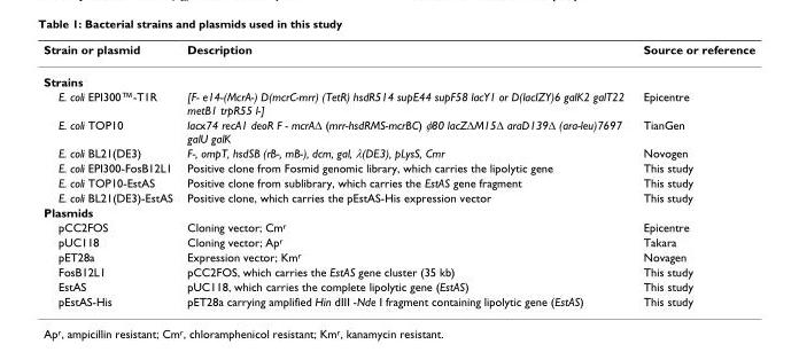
<table><thead><tr><td>Strain or plasmid</td><td>Description</td><td>Source or reference</td></tr></thead><tbody><tr><td colspan="3">Strains</td></tr><tr><td>E. coli EPI300™-T1R</td><td>[F- e14-(McrA-) D(mcrC-mrr) (TetR) hsdR514 supE44 supF58 lacY1 or D(lacIZY)6 galK2 galT22 metB1 trpR55 l-]</td><td>Epicentre</td></tr><tr><td>E. coli TOP10</td><td>lacx74 recA1 deoR F - mcrAΔ (mrr-hsdRMS-mcrBC) φ80 lacZΔM15Δ araD139Δ (ara-leu)7697 galU galK</td><td>TianGen</td></tr><tr><td>E. coli BL21(DE3)</td><td>F-, ompT, hsdSB (rB-, mB-), dcm, gal, λ(DE3), pLysS, Cmr</td><td>Novogen</td></tr><tr><td>E. coli EPI300-FosB12L1</td><td>Positive clone from Fosmid genomic library, which carries the lipolytic gene</td><td>This study</td></tr><tr><td>E. coli TOP10-EstAS</td><td>Positive clone from sublibrary, which carries the EstAS gene fragment</td><td>This study</td></tr><tr><td>E. coli BL21(DE3)-EstAS</td><td>Positive clone, which carries the pEstAS-His expression vector</td><td>This study</td></tr><tr><td colspan="3">Plasmids</td></tr><tr><td>pCC2FOS</td><td>Cloning vector; Cm<sup>r</sup></td><td>Epicentre</td></tr><tr><td>pUC118</td><td>Cloning vector; Ap<sup>r</sup></td><td>Takara</td></tr><tr><td>pET28a</td><td>Expression vector; Km<sup>r</sup></td><td>Novagen</td></tr><tr><td>FosB12L1</td><td>pCC2FOS, which carries the EstAS gene cluster (35 kb)</td><td>This study</td></tr><tr><td>EstAS</td><td>pUC118, which carries the complete lipolytic gene (EstAS)</td><td>This study</td></tr><tr><td>pEstAS-His</td><td>pET28a carrying amplified Hin dIII -Nde I fragment containing lipolytic gene (EstAS)</td><td>This study</td></tr></tbody></table>